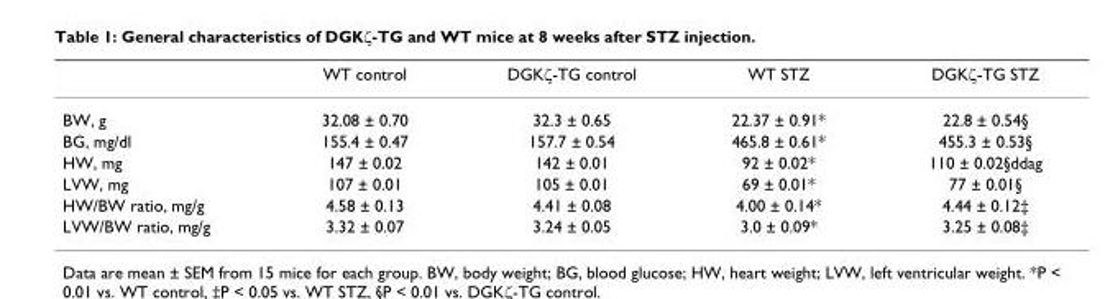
<table><thead><tr><td></td><td>WT control</td><td>DGKζ-TG control</td><td>WT STZ</td><td>DGKζ-TG STZ</td></tr></thead><tbody><tr><td>BW, g</td><td>32.08 ± 0.70</td><td>32.3 ± 0.65</td><td>22.37 ± 0.91*</td><td>22.8 ± 0.54§</td></tr><tr><td>BG, mg/dl</td><td>155.4 ± 0.47</td><td>157.7 ± 0.54</td><td>465.8 ± 0.61*</td><td>455.3 ± 0.53§</td></tr><tr><td>HW, mg</td><td>147 ± 0.02</td><td>142 ± 0.01</td><td>92 ± 0.02*</td><td>110 ± 0.02§ddag</td></tr><tr><td>LVW, mg</td><td>107 ± 0.01</td><td>105 ± 0.01</td><td>69 ± 0.01*</td><td>77 ± 0.01§</td></tr><tr><td>HW/BW ratio, mg/g</td><td>4.58 ± 0.13</td><td>4.41 ± 0.08</td><td>4.00 ± 0.14*</td><td>4.44 ± 0.12‡</td></tr><tr><td>LVW/BW ratio, mg/g</td><td>3.32 ± 0.07</td><td>3.24 ± 0.05</td><td>3.0 ± 0.09*</td><td>3.25 ± 0.08‡</td></tr></tbody></table>